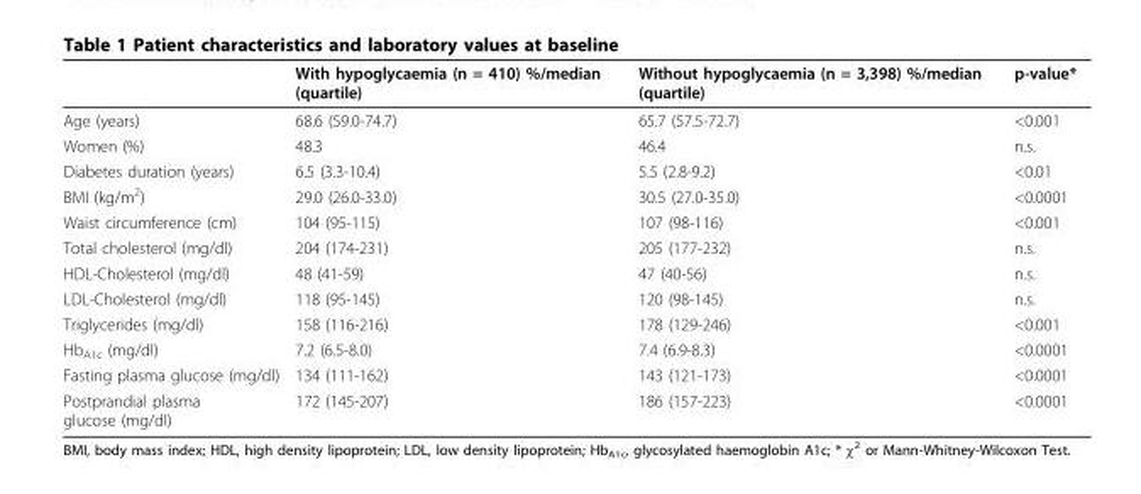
<table><thead><tr><td></td><td>With hypoglycaemia (n = 410) %/median (quartile)</td><td>Without hypoglycaemia (n = 3,398) %/median (quartile)</td><td>p-value*</td></tr></thead><tbody><tr><td>Age (years)</td><td>68.6 (59.0-74.7)</td><td>65.7 (57.5-72.7)</td><td>&lt;0.001</td></tr><tr><td>Women (%)</td><td>48.3</td><td>46.4</td><td>n.s.</td></tr><tr><td>Diabetes duration (years)</td><td>6.5 (3.3-10.4)</td><td>5.5 (2.8-9.2)</td><td>&lt;0.01</td></tr><tr><td>BMI (kg/m<sup>2</sup>)</td><td>29.0 (26.0-33.0)</td><td>30.5 (27.0-35.0)</td><td>&lt;0.0001</td></tr><tr><td>Waist circumference (cm)</td><td>104 (95-115)</td><td>107 (98-116)</td><td>&lt;0.001</td></tr><tr><td>Total cholesterol (mg/dl)</td><td>204 (174-231)</td><td>205 (177-232)</td><td>n.s.</td></tr><tr><td>HDL-Cholesterol (mg/dl)</td><td>48 (41-59)</td><td>47 (40-56)</td><td>n.s.</td></tr><tr><td>LDL-Cholesterol (mg/dl)</td><td>118 (95-145)</td><td>120 (98-145)</td><td>n.s.</td></tr><tr><td>Triglycerides (mg/dl)</td><td>158 (116-216)</td><td>178 (129-246)</td><td>&lt;0.001</td></tr><tr><td>Hb<sub>A1c</sub> (mg/dl)</td><td>7.2 (6.5-8.0)</td><td>7.4 (6.9-8.3)</td><td>&lt;0.0001</td></tr><tr><td>Fasting plasma glucose (mg/dl)</td><td>134 (111-162)</td><td>143 (121-173)</td><td>&lt;0.0001</td></tr><tr><td>Postprandial plasma glucose (mg/dl)</td><td>172 (145-207)</td><td>186 (157-223)</td><td>&lt;0.0001</td></tr></tbody></table>